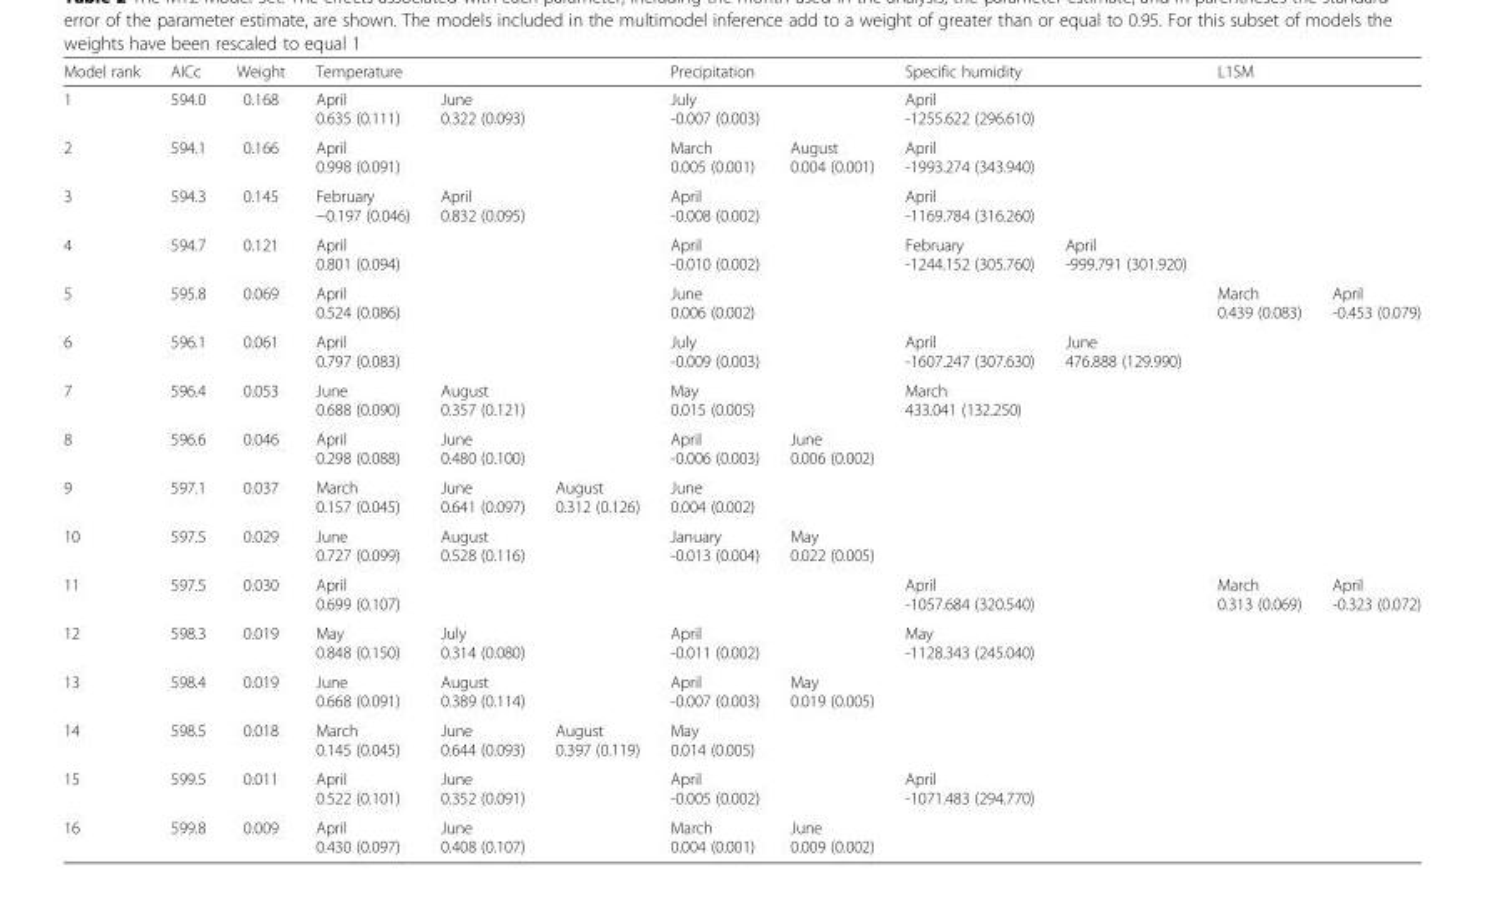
<table><thead><tr><td rowspan="2">Model rank 1</td><td rowspan="2">AICc 594.0</td><td rowspan="2">Weight 0.168</td><td colspan="3">Temperature</td><td colspan="2">Precipitation</td><td colspan="2">Specific humidity</td><td colspan="2">L1SM</td></tr><tr><td>April 0.635 (0.111)</td><td>June 0.322 (0.093)</td><td></td><td>July -0.007 (0.003)</td><td></td><td>April -1255.622 (296.610)</td><td></td><td></td><td></td></tr></thead><tbody><tr><td>2</td><td>594.1</td><td>0.166</td><td>April 0.998 (0.091)</td><td></td><td></td><td>March 0.005 (0.001)</td><td>August 0.004 (0.001)</td><td>April -1993.274 (343.940)</td><td></td><td></td><td></td></tr><tr><td>3</td><td>594.3</td><td>0.145</td><td>February −0.197 (0.046)</td><td>April 0.832 (0.095)</td><td></td><td>April -0.008 (0.002)</td><td></td><td>April -1169.784 (316.260)</td><td></td><td></td><td></td></tr><tr><td>4</td><td>594.7</td><td>0.121</td><td>April 0.801 (0.094)</td><td></td><td></td><td>April -0.010 (0.002)</td><td></td><td>February -1244.152 (305.760)</td><td>April -999.791 (301.920)</td><td></td><td></td></tr><tr><td>5</td><td>595.8</td><td>0.069</td><td>April 0.524 (0.086)</td><td></td><td></td><td>June 0.006 (0.002)</td><td></td><td></td><td></td><td>March 0.439 (0.083)</td><td>April -0.453 (0.079)</td></tr><tr><td>6</td><td>596.1</td><td>0.061</td><td>April 0.797 (0.083)</td><td></td><td></td><td>July -0.009 (0.003)</td><td></td><td>April -1607.247 (307.630)</td><td>June 476.888 (129.990)</td><td></td><td></td></tr><tr><td>7</td><td>596.4</td><td>0.053</td><td>June 0.688 (0.090)</td><td>August 0.357 (0.121)</td><td></td><td>May 0.015 (0.005)</td><td></td><td>March 433.041 (132.250)</td><td></td><td></td><td></td></tr><tr><td>8</td><td>596.6</td><td>0.046</td><td>April 0.298 (0.088)</td><td>June 0.480 (0.100)</td><td></td><td>April -0.006 (0.003)</td><td>June 0.006 (0.002)</td><td></td><td></td><td></td><td></td></tr><tr><td>9</td><td>597.1</td><td>0.037</td><td>March 0.157 (0.045)</td><td>June 0.641 (0.097)</td><td>August 0.312 (0.126)</td><td>June 0.004 (0.002)</td><td></td><td></td><td></td><td></td><td></td></tr><tr><td>10</td><td>597.5</td><td>0.029</td><td>June 0.727 (0.099)</td><td>August 0.528 (0.116)</td><td></td><td>January -0.013 (0.004)</td><td>May 0.022 (0.005)</td><td></td><td></td><td></td><td></td></tr><tr><td>11</td><td>597.5</td><td>0.030</td><td>April 0.699 (0.107)</td><td></td><td></td><td></td><td></td><td>April -1057.684 (320.540)</td><td></td><td>March 0.313 (0.069)</td><td>April -0.323 (0.072)</td></tr><tr><td>12</td><td>598.3</td><td>0.019</td><td>May 0.848 (0.150)</td><td>July 0.314 (0.080)</td><td></td><td>April -0.011 (0.002)</td><td></td><td>May -1128.343 (245.040)</td><td></td><td></td><td></td></tr><tr><td>13</td><td>598.4</td><td>0.019</td><td>June 0.668 (0.091)</td><td>August 0.389 (0.114)</td><td></td><td>April -0.007 (0.003)</td><td>May 0.019 (0.005)</td><td></td><td></td><td></td><td></td></tr><tr><td>14</td><td>598.5</td><td>0.018</td><td>March 0.145 (0.045)</td><td>June 0.644 (0.093)</td><td>August 0.397 (0.119)</td><td>May 0.014 (0.005)</td><td></td><td></td><td></td><td></td><td></td></tr><tr><td>15</td><td>599.5</td><td>0.011</td><td>April 0.522 (0.101)</td><td>June 0.352 (0.091)</td><td></td><td>April -0.005 (0.002)</td><td></td><td>April -1071.483 (294.770)</td><td></td><td></td><td></td></tr><tr><td>16</td><td>599.8</td><td>0.009</td><td>April 0.430 (0.097)</td><td>June 0.408 (0.107)</td><td></td><td>March 0.004 (0.001)</td><td>June 0.009 (0.002)</td><td></td><td></td><td></td><td></td></tr></tbody></table>